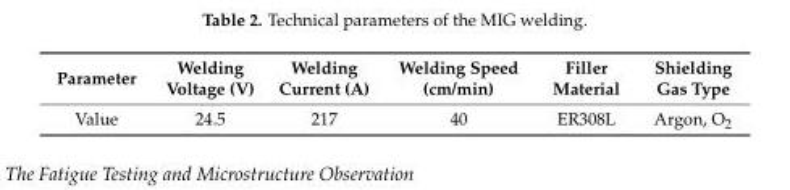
<table><thead><tr><td>Parameter</td><td>Welding Voltage (V)</td><td>Welding Current (A)</td><td>Welding Speed (cm/min)</td><td>Filler Material</td><td>Shielding Gas Type</td></tr></thead><tbody><tr><td>Value</td><td>24.5</td><td>217</td><td>40</td><td>ER308L</td><td>Argon, O<sub>2</sub></td></tr></tbody></table>